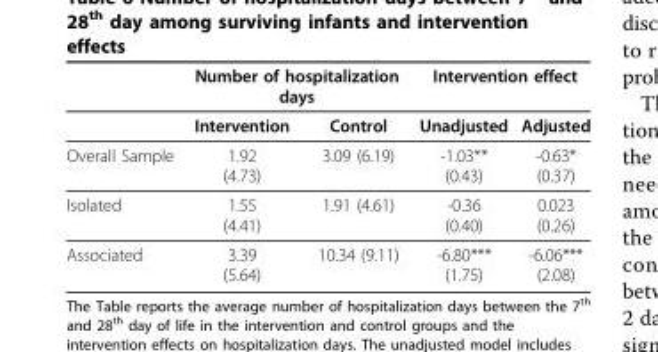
<table><thead><tr><td rowspan="2"></td><td colspan="2">Number of hospitalization days</td><td colspan="2">Intervention effect</td></tr><tr><td>Intervention</td><td>Control</td><td>Unadjusted</td><td>Adjusted</td></tr></thead><tbody><tr><td>Overall Sample</td><td>1.92 (4.73)</td><td>3.09 (6.19)</td><td>-1.03** (0.43)</td><td>-0.63* (0.37)</td></tr><tr><td>Isolated</td><td>1.55 (4.41)</td><td>1.91 (4.61)</td><td>-0.36 (0.40)</td><td>0.023 (0.26)</td></tr><tr><td>Associated</td><td>3.39 (5.64)</td><td>10.34 (9.11)</td><td>-6.80*** (1.75)</td><td>-6.06*** (2.08)</td></tr></tbody></table>